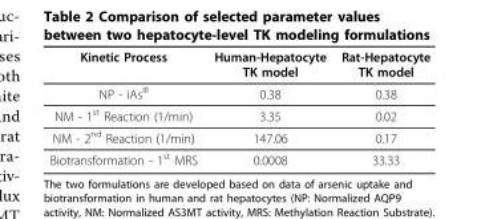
<table><thead><tr><td>Kinetic Process</td><td>Human-Hepatocyte TK model</td><td>Rat-Hepatocyte TK model</td></tr></thead><tbody><tr><td>NP - iAs<sup>III</sup></td><td>0.38</td><td>0.38</td></tr><tr><td>NM - 1<sup>st</sup> Reaction (1/min)</td><td>3.35</td><td>0.02</td></tr><tr><td>NM - 2<sup>nd</sup> Reaction (1/min)</td><td>147.06</td><td>0.17</td></tr><tr><td>Biotransformation - 1<sup>st</sup> MRS</td><td>0.0008</td><td>33.33</td></tr></tbody></table>